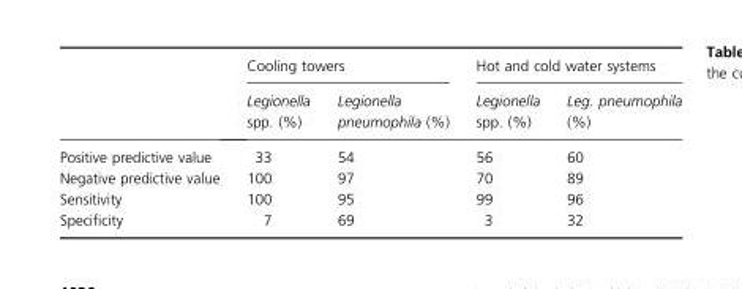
<table><thead><tr><td rowspan="2"></td><td colspan="2">Cooling towers</td><td colspan="2">Hot and cold water systems</td></tr><tr><td>Legionella spp. (%)</td><td>Legionella pneumophila (%)</td><td>Legionella spp. (%)</td><td>Leg. pneumophila (%)</td></tr></thead><tbody><tr><td>Positive predictive value</td><td>33</td><td>54</td><td>56</td><td>60</td></tr><tr><td>Negative predictive value</td><td>100</td><td>97</td><td>70</td><td>89</td></tr><tr><td>Sensitivity</td><td>100</td><td>95</td><td>99</td><td>96</td></tr><tr><td>Specificity</td><td>7</td><td>69</td><td>3</td><td>32</td></tr></tbody></table>